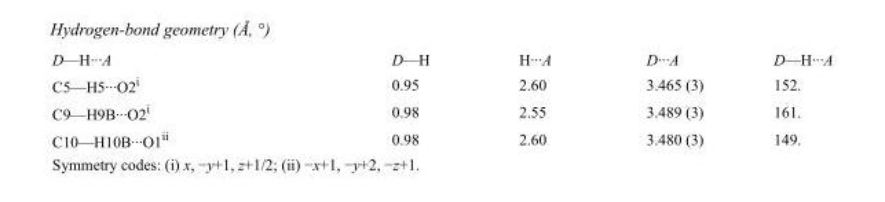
<table><tbody><tr><td>D—H···A</td><td>D—H</td><td>H···A</td><td>D···A</td><td>D—H···A</td></tr><tr><td>C5—H5···O2<sup>i</sup></td><td>0.95</td><td>2.60</td><td>3.465 (3)</td><td>152.</td></tr><tr><td>C9—H9B···O2<sup>i</sup></td><td>0.98</td><td>2.55</td><td>3.489 (3)</td><td>161.</td></tr><tr><td>C10—H10B···O1<sup>ii</sup></td><td>0.98</td><td>2.60</td><td>3.480 (3)</td><td>149.</td></tr></tbody></table>